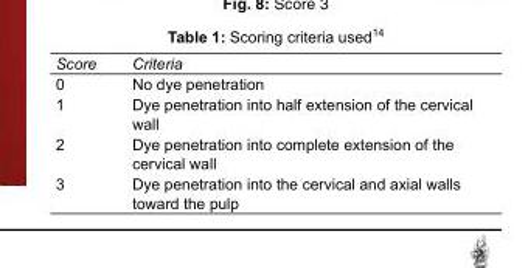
<table><tbody><tr><td>Score</td><td>Criteria</td></tr><tr><td>0</td><td>No dye penetration</td></tr><tr><td>1</td><td>Dye penetration into half extension of the cervical wall</td></tr><tr><td>2</td><td>Dye penetration into complete extension of the cervical wall</td></tr><tr><td>3</td><td>Dye penetration into the cervical and axial walls toward the pulp</td></tr></tbody></table>